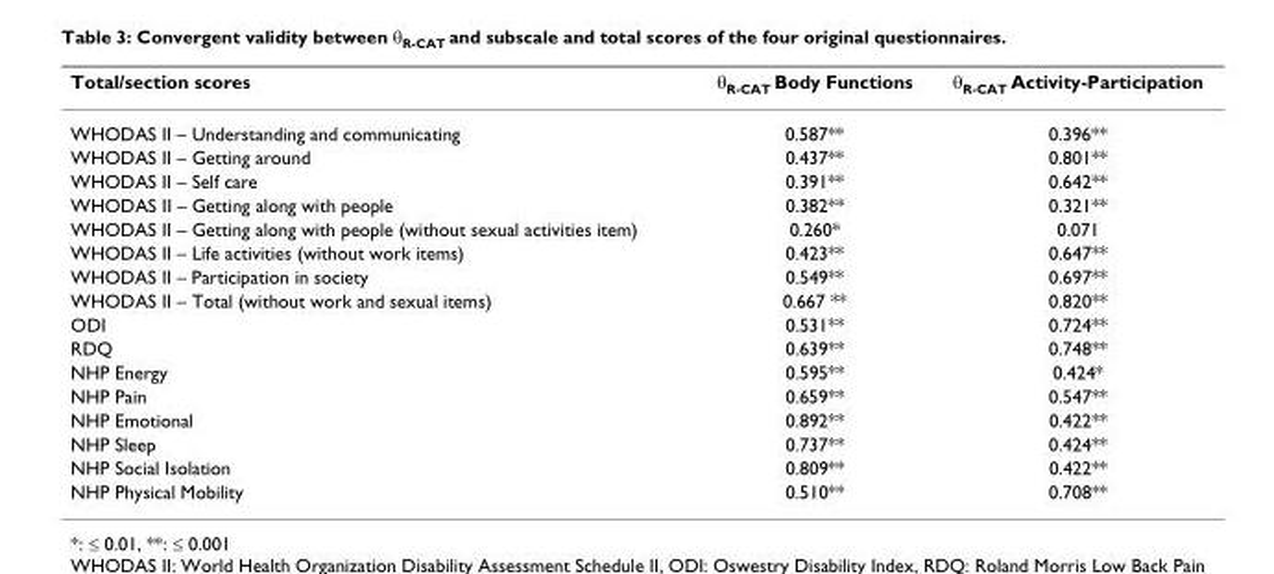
<table><thead><tr><td>Total/section scores</td><td>θ<sub>R-CAT</sub> Body Functions</td><td>θ<sub>R-CAT</sub> Activity-Participation</td></tr></thead><tbody><tr><td>WHODAS II – Understanding and communicating</td><td>0.587**</td><td>0.396**</td></tr><tr><td>WHODAS II – Getting around</td><td>0.437**</td><td>0.801**</td></tr><tr><td>WHODAS II – Self care</td><td>0.391**</td><td>0.642**</td></tr><tr><td>WHODAS II – Getting along with people</td><td>0.382**</td><td>0.321**</td></tr><tr><td>WHODAS II – Getting along with people (without sexual activities item)</td><td>0.260*</td><td>0.071</td></tr><tr><td>WHODAS II – Life activities (without work items)</td><td>0.423**</td><td>0.647**</td></tr><tr><td>WHODAS II – Participation in society</td><td>0.549**</td><td>0.697**</td></tr><tr><td>WHODAS II – Total (without work and sexual items)</td><td>0.667 **</td><td>0.820**</td></tr><tr><td>ODI</td><td>0.531**</td><td>0.724**</td></tr><tr><td>RDQ</td><td>0.639**</td><td>0.748**</td></tr><tr><td>NHP Energy</td><td>0.595**</td><td>0.424*</td></tr><tr><td>NHP Pain</td><td>0.659**</td><td>0.547**</td></tr><tr><td>NHP Emotional</td><td>0.892**</td><td>0.422**</td></tr><tr><td>NHP Sleep</td><td>0.737**</td><td>0.424**</td></tr><tr><td>NHP Social Isolation</td><td>0.809**</td><td>0.422**</td></tr><tr><td>NHP Physical Mobility</td><td>0.510**</td><td>0.708**</td></tr></tbody></table>